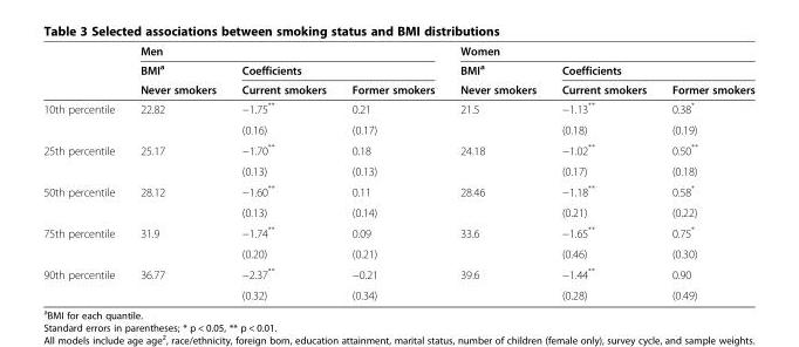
<table><thead><tr><td rowspan="3"></td><td colspan="3">Men</td><td colspan="3">Women</td></tr><tr><td rowspan="2">BMI<sup>a</sup> Never smokers</td><td colspan="2">Coefficients</td><td rowspan="2">BMI<sup>a</sup> Never smokers</td><td colspan="2">Coefficients</td></tr><tr><td>Current smokers</td><td>Former smokers</td><td>Current smokers</td><td>Former smokers</td></tr></thead><tbody><tr><td rowspan="2">10th percentile</td><td>22.82</td><td>−1.75**</td><td>0.21</td><td>21.5</td><td>−1.13**</td><td>0.38*</td></tr><tr><td></td><td>(0.16)</td><td>(0.17)</td><td></td><td>(0.18)</td><td>(0.19)</td></tr><tr><td rowspan="2">25th percentile</td><td>25.17</td><td>−1.70**</td><td>0.18</td><td>24.18</td><td>−1.02**</td><td>0.50**</td></tr><tr><td></td><td>(0.13)</td><td>(0.13)</td><td></td><td>(0.17)</td><td>(0.18)</td></tr><tr><td rowspan="2">50th percentile</td><td>28.12</td><td>−1.60**</td><td>0.11</td><td>28.46</td><td>−1.18**</td><td>0.58*</td></tr><tr><td></td><td>(0.13)</td><td>(0.14)</td><td></td><td>(0.21)</td><td>(0.22)</td></tr><tr><td rowspan="2">75th percentile</td><td>31.9</td><td>−1.74**</td><td>0.09</td><td>33.6</td><td>−1.65**</td><td>0.75*</td></tr><tr><td></td><td>(0.20)</td><td>(0.21)</td><td></td><td>(0.46)</td><td>(0.30)</td></tr><tr><td rowspan="2">90th percentile</td><td>36.77</td><td>−2.37**</td><td>−0.21</td><td>39.6</td><td>−1.44**</td><td>0.90</td></tr><tr><td></td><td>(0.32)</td><td>(0.34)</td><td></td><td>(0.28)</td><td>(0.49)</td></tr></tbody></table>